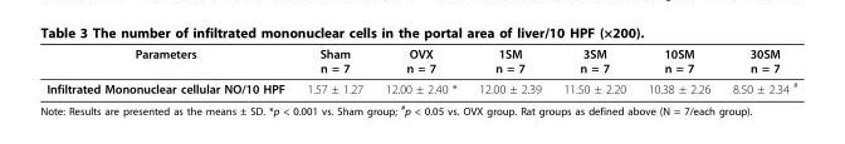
<table><thead><tr><td>Parameters</td><td>Sham n = 7</td><td>OVX n = 7</td><td>1SM n = 7</td><td>3SM n = 7</td><td>10SM n = 7</td><td>30SM n = 7</td></tr></thead><tbody><tr><td>Infiltrated Mononuclear cellular NO/10 HPF</td><td>1.57 ± 1.27</td><td>12.00 ± 2.40 *</td><td>12.00 ± 2.39</td><td>11.50 ± 2.20</td><td>10.38 ± 2.26</td><td>8.50 ± 2.34 <sup>#</sup></td></tr></tbody></table>